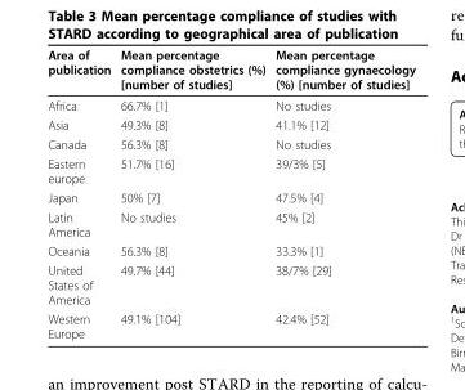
<table><thead><tr><td>Area of publication</td><td>Mean percentage compliance obstetrics (%) [number of studies]</td><td>Mean percentage compliance gynaecology (%) [number of studies]</td></tr></thead><tbody><tr><td>Africa</td><td>66.7% [1]</td><td>No studies</td></tr><tr><td>Asia</td><td>49.3% [8]</td><td>41.1% [12]</td></tr><tr><td>Canada</td><td>56.3% [8]</td><td>No studies</td></tr><tr><td>Eastern europe</td><td>51.7% [16]</td><td>39/3% [5]</td></tr><tr><td>Japan</td><td>50% [7]</td><td>47.5% [4]</td></tr><tr><td>Latin America</td><td>No studies</td><td>45% [2]</td></tr><tr><td>Oceania</td><td>56.3% [8]</td><td>33.3% [1]</td></tr><tr><td>United States of America</td><td>49.7% [44]</td><td>38/7% [29]</td></tr><tr><td>Western Europe</td><td>49.1% [104]</td><td>42.4% [52]</td></tr></tbody></table>